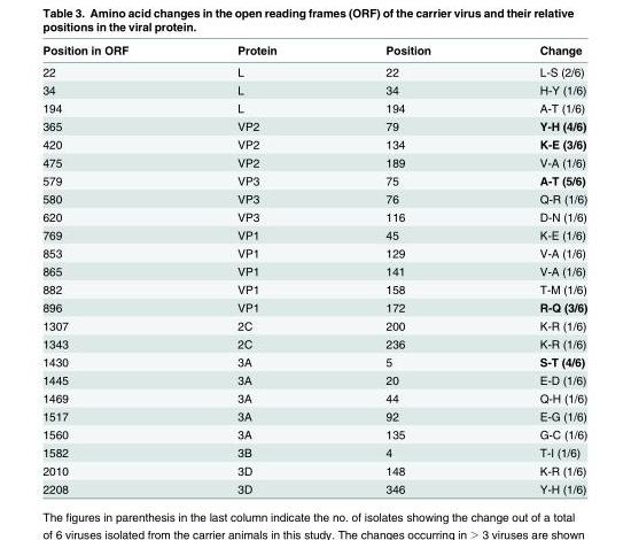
<table><thead><tr><td>Position in ORF</td><td>Protein</td><td>Position</td><td>Change</td></tr></thead><tbody><tr><td>22</td><td>L</td><td>22</td><td>L-S (2/6)</td></tr><tr><td>34</td><td>L</td><td>34</td><td>H-Y (1/6)</td></tr><tr><td>194</td><td>L</td><td>194</td><td>A-T (1/6)</td></tr><tr><td>365</td><td>VP2</td><td>79</td><td>Y-H (4/6)</td></tr><tr><td>420</td><td>VP2</td><td>134</td><td>K-E (3/6)</td></tr><tr><td>475</td><td>VP2</td><td>189</td><td>V-A (1/6)</td></tr><tr><td>579</td><td>VP3</td><td>75</td><td>A-T (5/6)</td></tr><tr><td>580</td><td>VP3</td><td>76</td><td>Q-R (1/6)</td></tr><tr><td>620</td><td>VP3</td><td>116</td><td>D-N (1/6)</td></tr><tr><td>769</td><td>VP1</td><td>45</td><td>K-E (1/6)</td></tr><tr><td>853</td><td>VP1</td><td>129</td><td>V-A (1/6)</td></tr><tr><td>865</td><td>VP1</td><td>141</td><td>V-A (1/6)</td></tr><tr><td>882</td><td>VP1</td><td>158</td><td>T-M (1/6)</td></tr><tr><td>896</td><td>VP1</td><td>172</td><td>R-Q (3/6)</td></tr><tr><td>1307</td><td>2C</td><td>200</td><td>K-R (1/6)</td></tr><tr><td>1343</td><td>2C</td><td>236</td><td>K-R (1/6)</td></tr><tr><td>1430</td><td>3A</td><td>5</td><td>S-T (4/6)</td></tr><tr><td>1445</td><td>3A</td><td>20</td><td>E-D (1/6)</td></tr><tr><td>1469</td><td>3A</td><td>44</td><td>Q-H (1/6)</td></tr><tr><td>1517</td><td>3A</td><td>92</td><td>E-G (1/6)</td></tr><tr><td>1560</td><td>3A</td><td>135</td><td>G-C (1/6)</td></tr><tr><td>1582</td><td>3B</td><td>4</td><td>T-I (1/6)</td></tr><tr><td>2010</td><td>3D</td><td>148</td><td>K-R (1/6)</td></tr><tr><td>2208</td><td>3D</td><td>346</td><td>Y-H (1/6)</td></tr></tbody></table>